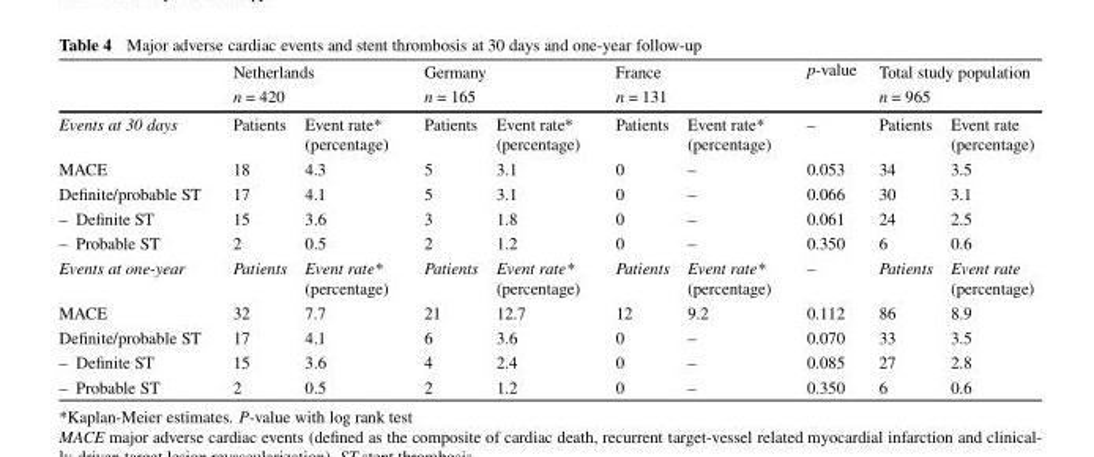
<table><thead><tr><td rowspan="3">Events at 30 days</td><td rowspan="2" colspan="2">Netherlands n = 420</td><td rowspan="2" colspan="2">Germany n = 165</td><td rowspan="2" colspan="2">France n = 131</td><td rowspan="3">p-value –</td><td rowspan="2" colspan="2">Total study population n = 965</td></tr><tr></tr><tr><td>Patients</td><td>Event rate* (percentage)</td><td>Patients</td><td>Event rate* (percentage)</td><td>Patients</td><td>Event rate* (percentage)</td><td>Patients</td><td>Event rate (percentage)</td></tr></thead><tbody><tr><td>MACE</td><td>18</td><td>4.3</td><td>5</td><td>3.1</td><td>0</td><td>–</td><td>0.053</td><td>34</td><td>3.5</td></tr><tr><td>Definite/probable ST</td><td>17</td><td>4.1</td><td>5</td><td>3.1</td><td>0</td><td>–</td><td>0.066</td><td>30</td><td>3.1</td></tr><tr><td>– Definite ST</td><td>15</td><td>3.6</td><td>3</td><td>1.8</td><td>0</td><td>–</td><td>0.061</td><td>24</td><td>2.5</td></tr><tr><td>– Probable ST</td><td>2</td><td>0.5</td><td>2</td><td>1.2</td><td>0</td><td>–</td><td>0.350</td><td>6</td><td>0.6</td></tr><tr><td>Events at one-year</td><td>Patients</td><td>Event rate* (percentage)</td><td>Patients</td><td>Event rate* (percentage)</td><td>Patients</td><td>Event rate* (percentage)</td><td>–</td><td>Patients</td><td>Event rate (percentage)</td></tr><tr><td>MACE</td><td>32</td><td>7.7</td><td>21</td><td>12.7</td><td>12</td><td>9.2</td><td>0.112</td><td>86</td><td>8.9</td></tr><tr><td>Definite/probable ST</td><td>17</td><td>4.1</td><td>6</td><td>3.6</td><td>0</td><td>–</td><td>0.070</td><td>33</td><td>3.5</td></tr><tr><td>– Definite ST</td><td>15</td><td>3.6</td><td>4</td><td>2.4</td><td>0</td><td>–</td><td>0.085</td><td>27</td><td>2.8</td></tr><tr><td>– Probable ST</td><td>2</td><td>0.5</td><td>2</td><td>1.2</td><td>0</td><td>–</td><td>0.350</td><td>6</td><td>0.6</td></tr></tbody></table>